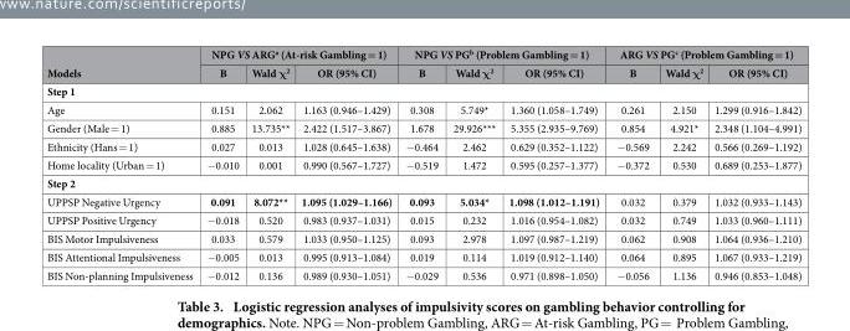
<table><thead><tr><td rowspan="2">Models</td><td colspan="3">NPG VS ARG<sup>a</sup> (At-risk Gambling = 1)</td><td colspan="3">NPG VS PG<sup>b</sup> (Problem Gambling = 1)</td><td colspan="3">ARG VS PG<sup>c</sup> (Problem Gambling = 1)</td></tr><tr><td>B</td><td>Wald χ<sup>2</sup></td><td>OR (95% CI)</td><td>B</td><td>Wald χ<sup>2</sup></td><td>OR (95% CI)</td><td>B</td><td>Wald χ<sup>2</sup></td><td>OR (95% CI)</td></tr></thead><tbody><tr><td colspan="10">Step 1</td></tr><tr><td>Age</td><td>0.151</td><td>2.062</td><td>1.163 (0.946–1.429)</td><td>0.308</td><td>5.749*</td><td>1.360 (1.058–1.749)</td><td>0.261</td><td>2.150</td><td>1.299 (0.916–1.842)</td></tr><tr><td>Gender (Male = 1)</td><td>0.885</td><td>13.735**</td><td>2.422 (1.517–3.867)</td><td>1.678</td><td>29.926***</td><td>5.355 (2.935–9.769)</td><td>0.854</td><td>4.921*</td><td>2.348 (1.104–4.991)</td></tr><tr><td>Ethnicity (Hans = 1)</td><td>0.027</td><td>0.013</td><td>1.028 (0.645–1.638)</td><td>− 0.464</td><td>2.462</td><td>0.629 (0.352–1.122)</td><td>− 0.569</td><td>2.242</td><td>0.566 (0.269–1.192)</td></tr><tr><td>Home locality (Urban = 1)</td><td>− 0.010</td><td>0.001</td><td>0.990 (0.567–1.727)</td><td>− 0.519</td><td>1.472</td><td>0.595 (0.257–1.377)</td><td>− 0.372</td><td>0.530</td><td>0.689 (0.253–1.877)</td></tr><tr><td colspan="10">Step 2</td></tr><tr><td>UPPSP Negative Urgency</td><td>0.091</td><td>8.072**</td><td>1.095 (1.029–1.166)</td><td>0.093</td><td>5.034*</td><td>1.098 (1.012–1.191)</td><td>0.032</td><td>0.379</td><td>1.032 (0.933–1.143)</td></tr><tr><td>UPPSP Positive Urgency</td><td>− 0.018</td><td>0.520</td><td>0.983 (0.937–1.031)</td><td>0.015</td><td>0.232</td><td>1.016 (0.954–1.082)</td><td>0.032</td><td>0.749</td><td>1.033 (0.960–1.111)</td></tr><tr><td>BIS Motor Impulsiveness</td><td>0.033</td><td>0.579</td><td>1.033 (0.950–1.125)</td><td>0.093</td><td>2.978</td><td>1.097 (0.987–1.219)</td><td>0.062</td><td>0.908</td><td>1.064 (0.936–1.210)</td></tr><tr><td>BIS Attentional Impulsiveness</td><td>− 0.005</td><td>0.013</td><td>0.995 (0.913–1.084)</td><td>0.019</td><td>0.114</td><td>1.019 (0.912–1.140)</td><td>0.064</td><td>0.895</td><td>1.067 (0.933–1.219)</td></tr><tr><td>BIS Non-planning Impulsiveness</td><td>− 0.012</td><td>0.136</td><td>0.989 (0.930–1.051)</td><td>− 0.029</td><td>0.536</td><td>0.971 (0.898–1.050)</td><td>− 0.056</td><td>1.136</td><td>0.946 (0.853–1.048)</td></tr></tbody></table>